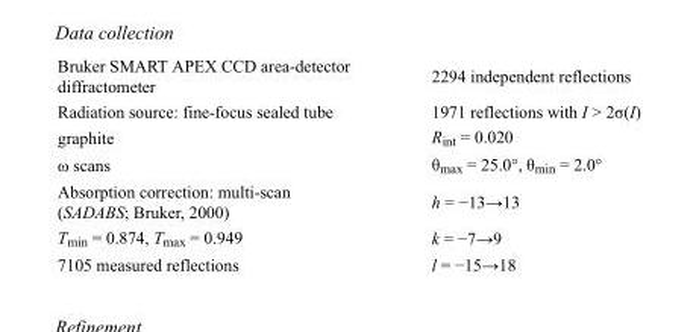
<table><tbody><tr><td>Bruker SMART APEX CCD area-detector diffractometer</td><td>2294 independent reflections</td></tr><tr><td>Radiation source: fine-focus sealed tube</td><td>1971 reflections with I &gt; 2σ(I)</td></tr><tr><td>graphite</td><td>R<sub>int</sub> = 0.020</td></tr><tr><td>ω scans</td><td>θ<sub>max</sub> = 25.0°, θ<sub>min</sub> = 2.0°</td></tr><tr><td>Absorption correction: multi-scan (SADABS; Bruker, 2000)</td><td>h = −13→13</td></tr><tr><td>T<sub>min</sub> = 0.874, T<sub>max</sub> = 0.949</td><td>k = −7→9</td></tr><tr><td>7105 measured reflections</td><td>l = −15→18</td></tr></tbody></table>